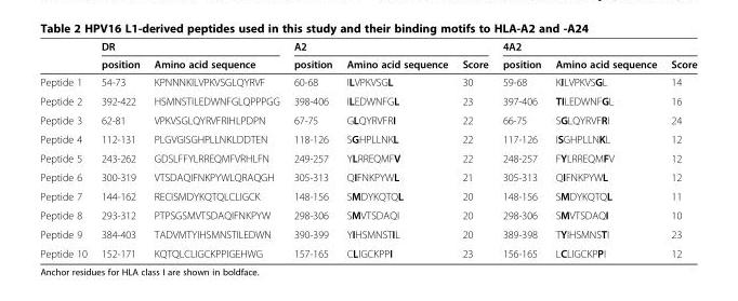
<table><thead><tr><td rowspan="2"></td><td colspan="2">DR</td><td colspan="3">A2</td><td colspan="3">4A2</td></tr><tr><td>position</td><td>Amino acid sequence</td><td>position</td><td>Amino acid sequence</td><td>Score</td><td>position</td><td>Amino acid sequence</td><td>Score</td></tr></thead><tbody><tr><td>Peptide 1</td><td>54-73</td><td>KPNNNKILVPKVSGLQYRVF</td><td>60-68</td><td>ILVPKVSGL</td><td>30</td><td>59-68</td><td>KILVPKVSGL</td><td>14</td></tr><tr><td>Peptide 2</td><td>392-422</td><td>HSMNSTILEDWNFGLQPPPGG</td><td>398-406</td><td>ILEDWNFGL</td><td>23</td><td>397-406</td><td>TILEDWNFGL</td><td>16</td></tr><tr><td>Peptide 3</td><td>62-81</td><td>VPKVSGLQYRVFRIHLPDPN</td><td>67-75</td><td>GLQYRVFRI</td><td>22</td><td>66-75</td><td>SGLQYRVFRI</td><td>24</td></tr><tr><td>Peptide 4</td><td>112-131</td><td>PLGVGISGHPLLNKLDDTEN</td><td>118-126</td><td>SGHPLLNKL</td><td>22</td><td>117-126</td><td>ISGHPLLNKL</td><td>12</td></tr><tr><td>Peptide 5</td><td>243-262</td><td>GDSLFFYLRREQMFVRHLFN</td><td>249-257</td><td>YLRREQMFV</td><td>22</td><td>248-257</td><td>FYLRREQMFV</td><td>12</td></tr><tr><td>Peptide 6</td><td>300-319</td><td>VTSDAQIFNKPYWLQRAQGH</td><td>305-313</td><td>QIFNKPYWL</td><td>21</td><td>305-313</td><td>QIFNKPYWL</td><td>12</td></tr><tr><td>Peptide 7</td><td>144-162</td><td>RECISMDYKQTQLCLIGCK</td><td>148-156</td><td>SMDYKQTQL</td><td>20</td><td>148-156</td><td>SMDYKQTQL</td><td>11</td></tr><tr><td>Peptide 8</td><td>293-312</td><td>PTPSGSMVTSDAQIFNKPYW</td><td>298-306</td><td>SMVTSDAQI</td><td>20</td><td>298-306</td><td>SMVTSDAQI</td><td>10</td></tr><tr><td>Peptide 9</td><td>384-403</td><td>TADVMTYIHSMNSTILEDWN</td><td>390-399</td><td>YIHSMNSTIL</td><td>20</td><td>389-398</td><td>TYIHSMNSTI</td><td>23</td></tr><tr><td>Peptide 10</td><td>152-171</td><td>KQTQLCLIGCKPPIGEHWG</td><td>157-165</td><td>CLIGCKPPI</td><td>23</td><td>156-165</td><td>LCLIGCKPPI</td><td>12</td></tr></tbody></table>